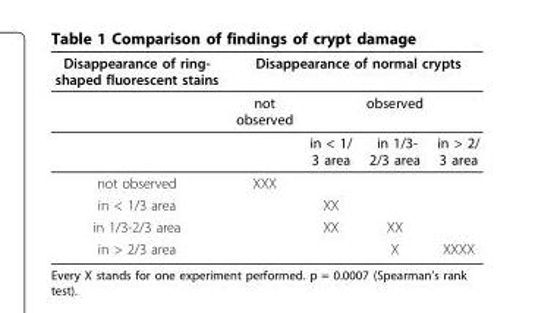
<table><thead><tr><td rowspan="3">Disappearance of ring- shaped fluorescent stains</td><td colspan="4">Disappearance of normal crypts</td></tr><tr><td rowspan="2">not observed</td><td colspan="3">observed</td></tr><tr><td>in &lt; 1/ 3 area</td><td>in 1/3- 2/3 area</td><td>in &gt; 2/ 3 area</td></tr></thead><tbody><tr><td>not observed</td><td>XXX</td><td></td><td></td><td></td></tr><tr><td>in &lt; 1/3 area</td><td></td><td>XX</td><td></td><td></td></tr><tr><td>in 1/3-2/3 area</td><td></td><td>XX</td><td>XX</td><td></td></tr><tr><td>in &gt; 2/3 area</td><td></td><td></td><td>X</td><td>XXXX</td></tr></tbody></table>